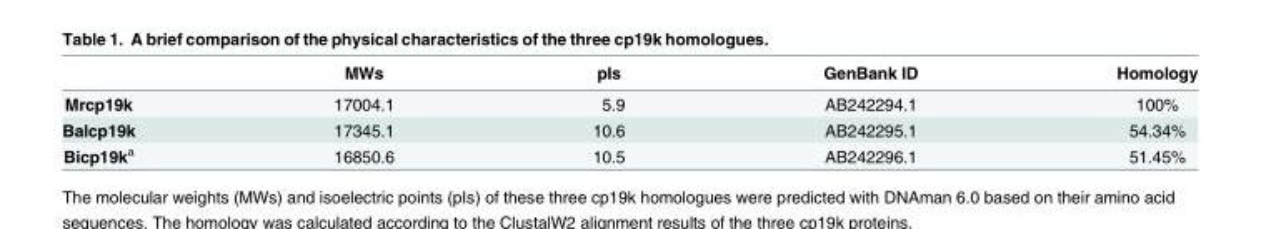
<table><thead><tr><td></td><td>MWs</td><td>pIs</td><td>GenBank ID</td><td>Homology</td></tr></thead><tbody><tr><td>Mrcp19k</td><td>17004.1</td><td>5.9</td><td>AB242294.1</td><td>100%</td></tr><tr><td>Balcp19k</td><td>17345.1</td><td>10.6</td><td>AB242295.1</td><td>54.34%</td></tr><tr><td>Bicp19k<sup>a</sup></td><td>16850.6</td><td>10.5</td><td>AB242296.1</td><td>51.45%</td></tr></tbody></table>